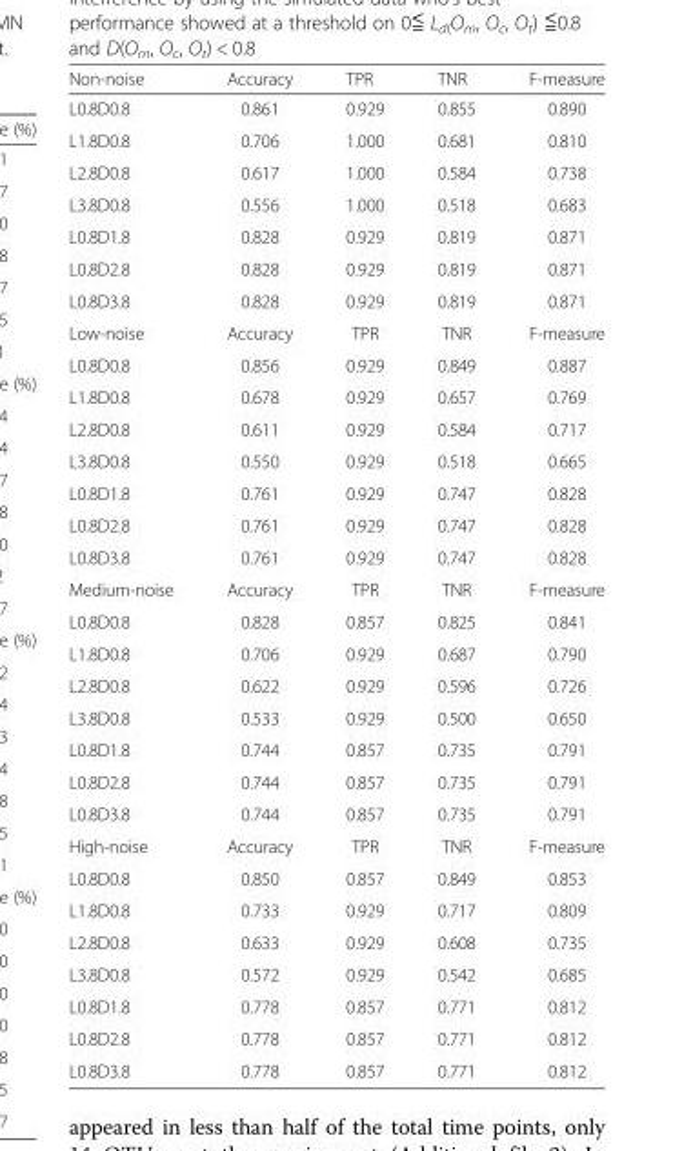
<table><thead><tr><td>Non-noise</td><td>Accuracy</td><td>TPR</td><td>TNR</td><td>F-measure</td></tr></thead><tbody><tr><td>L0.8D0.8</td><td>0.861</td><td>0.929</td><td>0.855</td><td>0.890</td></tr><tr><td>L1.8D0.8</td><td>0.706</td><td>1.000</td><td>0.681</td><td>0.810</td></tr><tr><td>L2.8D0.8</td><td>0.617</td><td>1.000</td><td>0.584</td><td>0.738</td></tr><tr><td>L3.8D0.8</td><td>0.556</td><td>1.000</td><td>0.518</td><td>0.683</td></tr><tr><td>L0.8D1.8</td><td>0.828</td><td>0.929</td><td>0.819</td><td>0.871</td></tr><tr><td>L0.8D2.8</td><td>0.828</td><td>0.929</td><td>0.819</td><td>0.871</td></tr><tr><td>L0.8D3.8</td><td>0.828</td><td>0.929</td><td>0.819</td><td>0.871</td></tr><tr><td>Low-noise</td><td>Accuracy</td><td>TPR</td><td>TNR</td><td>F-measure</td></tr><tr><td>L0.8D0.8</td><td>0.856</td><td>0.929</td><td>0.849</td><td>0.887</td></tr><tr><td>L1.8D0.8</td><td>0.678</td><td>0.929</td><td>0.657</td><td>0.769</td></tr><tr><td>L2.8D0.8</td><td>0.611</td><td>0.929</td><td>0.584</td><td>0.717</td></tr><tr><td>L3.8D0.8</td><td>0.550</td><td>0.929</td><td>0.518</td><td>0.665</td></tr><tr><td>L0.8D1.8</td><td>0.761</td><td>0.929</td><td>0.747</td><td>0.828</td></tr><tr><td>L0.8D2.8</td><td>0.761</td><td>0.929</td><td>0.747</td><td>0.828</td></tr><tr><td>L0.8D3.8</td><td>0.761</td><td>0.929</td><td>0.747</td><td>0.828</td></tr><tr><td>Medium-noise</td><td>Accuracy</td><td>TPR</td><td>TNR</td><td>F-measure</td></tr><tr><td>L0.8D0.8</td><td>0.828</td><td>0.857</td><td>0.825</td><td>0.841</td></tr><tr><td>L1.8D0.8</td><td>0.706</td><td>0.929</td><td>0.687</td><td>0.790</td></tr><tr><td>L2.8D0.8</td><td>0.622</td><td>0.929</td><td>0.596</td><td>0.726</td></tr><tr><td>L3.8D0.8</td><td>0.533</td><td>0.929</td><td>0.500</td><td>0.650</td></tr><tr><td>L0.8D1.8</td><td>0.744</td><td>0.857</td><td>0.735</td><td>0.791</td></tr><tr><td>L0.8D2.8</td><td>0.744</td><td>0.857</td><td>0.735</td><td>0.791</td></tr><tr><td>L0.8D3.8</td><td>0.744</td><td>0.857</td><td>0.735</td><td>0.791</td></tr><tr><td>High-noise</td><td>Accuracy</td><td>TPR</td><td>TNR</td><td>F-measure</td></tr><tr><td>L0.8D0.8</td><td>0.850</td><td>0.857</td><td>0.849</td><td>0.853</td></tr><tr><td>L1.8D0.8</td><td>0.733</td><td>0.929</td><td>0.717</td><td>0.809</td></tr><tr><td>L2.8D0.8</td><td>0.633</td><td>0.929</td><td>0.608</td><td>0.735</td></tr><tr><td>L3.8D0.8</td><td>0.572</td><td>0.929</td><td>0.542</td><td>0.685</td></tr><tr><td>L0.8D1.8</td><td>0.778</td><td>0.857</td><td>0.771</td><td>0.812</td></tr><tr><td>L0.8D2.8</td><td>0.778</td><td>0.857</td><td>0.771</td><td>0.812</td></tr><tr><td>L0.8D3.8</td><td>0.778</td><td>0.857</td><td>0.771</td><td>0.812</td></tr></tbody></table>